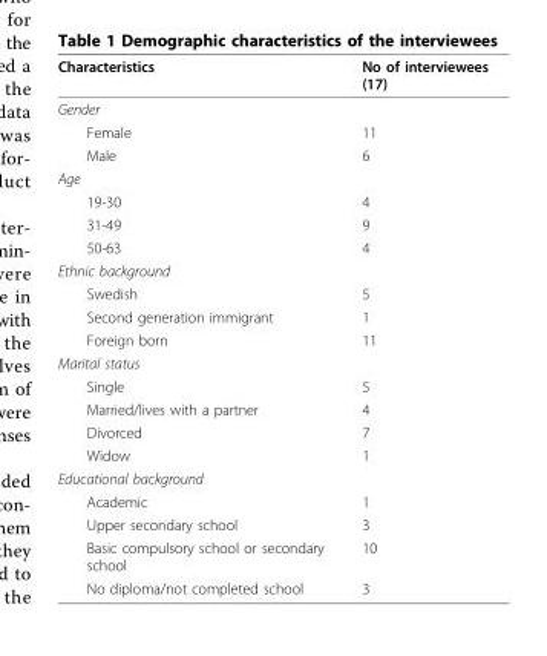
<table><thead><tr><td>Characteristics</td><td>No of interviewees (17)</td></tr></thead><tbody><tr><td colspan="2">Gender</td></tr><tr><td>Female</td><td>11</td></tr><tr><td>Male</td><td>6</td></tr><tr><td colspan="2">Age</td></tr><tr><td>19-30</td><td>4</td></tr><tr><td>31-49</td><td>9</td></tr><tr><td>50-63</td><td>4</td></tr><tr><td colspan="2">Ethnic background</td></tr><tr><td>Swedish</td><td>5</td></tr><tr><td>Second generation immigrant</td><td>1</td></tr><tr><td>Foreign born</td><td>11</td></tr><tr><td colspan="2">Marital status</td></tr><tr><td>Single</td><td>5</td></tr><tr><td>Married/lives with a partner</td><td>4</td></tr><tr><td>Divorced</td><td>7</td></tr><tr><td>Widow</td><td>1</td></tr><tr><td colspan="2">Educational background</td></tr><tr><td>Academic</td><td>1</td></tr><tr><td>Upper secondary school</td><td>3</td></tr><tr><td>Basic compulsory school or secondary school</td><td>10</td></tr><tr><td>No diploma/not completed school</td><td>3</td></tr></tbody></table>